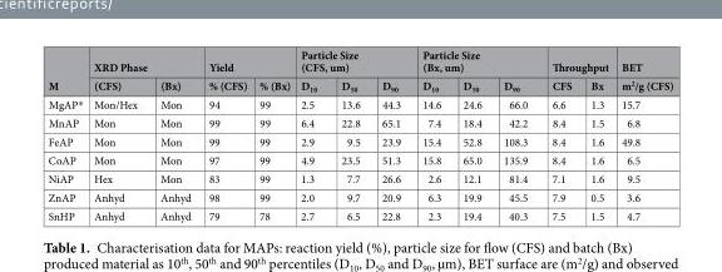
<table><thead><tr><td rowspan="2">M</td><td colspan="2">XRD Phase</td><td colspan="2">Yield</td><td colspan="3">Particle Size (CFS, um)</td><td colspan="3">Particle Size (Bx, um)</td><td colspan="2">Throughput</td><td rowspan="2">BET m<sup>2</sup>/g (CFS)</td></tr><tr><td>(CFS)</td><td>(Bx)</td><td>% (CFS)</td><td>% (Bx)</td><td>D<sub>10</sub></td><td>D<sub>50</sub></td><td>D<sub>90</sub></td><td>D<sub>10</sub></td><td>D<sub>50</sub></td><td>D<sub>90</sub></td><td>CFS</td><td>Bx</td></tr></thead><tbody><tr><td>MgAP*</td><td>Mon/Hex</td><td>Mon</td><td>94</td><td>99</td><td>2.5</td><td>13.6</td><td>44.3</td><td>14.6</td><td>24.6</td><td>66.0</td><td>6.6</td><td>1.3</td><td>15.7</td></tr><tr><td>MnAP</td><td>Mon</td><td>Mon</td><td>99</td><td>99</td><td>6.4</td><td>22.8</td><td>65.1</td><td>7.4</td><td>18.4</td><td>42.2</td><td>8.4</td><td>1.5</td><td>6.8</td></tr><tr><td>FeAP</td><td>Mon</td><td>Mon</td><td>99</td><td>99</td><td>2.9</td><td>9.5</td><td>23.9</td><td>15.4</td><td>52.8</td><td>108.3</td><td>8.4</td><td>1.6</td><td>49.8</td></tr><tr><td>CoAP</td><td>Mon</td><td>Mon</td><td>97</td><td>99</td><td>4.9</td><td>23.5</td><td>51.3</td><td>15.8</td><td>65.0</td><td>135.9</td><td>8.4</td><td>1.6</td><td>6.5</td></tr><tr><td>NiAP</td><td>Hex</td><td>Mon</td><td>83</td><td>99</td><td>1.3</td><td>7.7</td><td>26.6</td><td>2.6</td><td>12.1</td><td>81.4</td><td>7.1</td><td>1.6</td><td>9.5</td></tr><tr><td>ZnAP</td><td>Anhyd</td><td>Anhyd</td><td>98</td><td>99</td><td>2.0</td><td>9.7</td><td>20.9</td><td>6.3</td><td>19.9</td><td>45.5</td><td>7.9</td><td>0.5</td><td>3.6</td></tr><tr><td>SnHP</td><td>Anhyd</td><td>Anhyd</td><td>79</td><td>78</td><td>2.7</td><td>6.5</td><td>22.8</td><td>2.3</td><td>19.4</td><td>40.3</td><td>7.5</td><td>1.5</td><td>4.7</td></tr></tbody></table>